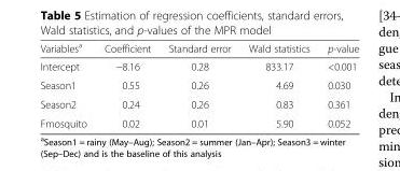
<table><thead><tr><td>Variables<sup>a</sup></td><td>Coefficient</td><td>Standard error</td><td>Wald statistics</td><td>p-value</td></tr></thead><tbody><tr><td>Intercept</td><td>−8.16</td><td>0.28</td><td>833.17</td><td>&lt;0.001</td></tr><tr><td>Season1</td><td>0.55</td><td>0.26</td><td>4.69</td><td>0.030</td></tr><tr><td>Season2</td><td>0.24</td><td>0.26</td><td>0.83</td><td>0.361</td></tr><tr><td>Fmosquito</td><td>0.02</td><td>0.01</td><td>5.90</td><td>0.052</td></tr></tbody></table>